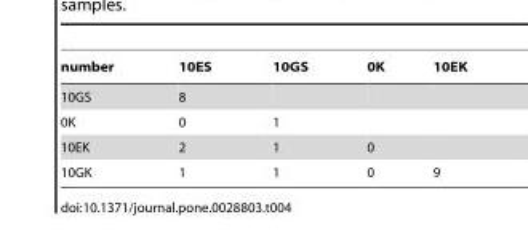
<table><thead><tr><td>number</td><td>10ES</td><td>10GS</td><td>0K</td><td>10EK</td></tr></thead><tbody><tr><td>10GS</td><td>8</td><td></td><td></td><td></td></tr><tr><td>0K</td><td>0</td><td>1</td><td></td><td></td></tr><tr><td>10EK</td><td>2</td><td>1</td><td>0</td><td></td></tr><tr><td>10GK</td><td>1</td><td>1</td><td>0</td><td>9</td></tr></tbody></table>